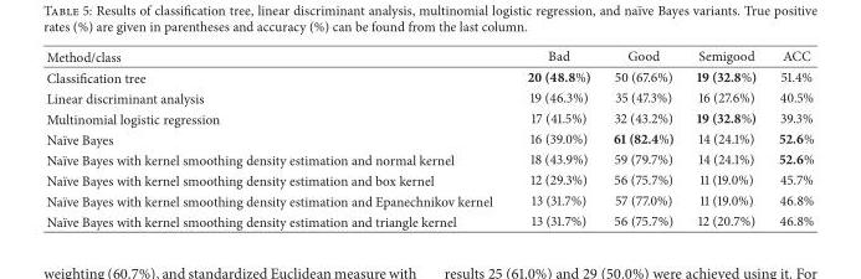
<table><thead><tr><td>Method/class</td><td>Bad</td><td>Good</td><td>Semigood</td><td>ACC</td></tr></thead><tbody><tr><td>Classification tree</td><td>20 (48.8%)</td><td>50 (67.6%)</td><td>19 (32.8%)</td><td>51.4%</td></tr><tr><td>Linear discriminant analysis</td><td>19 (46.3%)</td><td>35 (47.3%)</td><td>16 (27.6%)</td><td>40.5%</td></tr><tr><td>Multinomial logistic regression</td><td>17 (41.5%)</td><td>32 (43.2%)</td><td>19 (32.8%)</td><td>39.3%</td></tr><tr><td>Na¨ıve Bayes</td><td>16 (39.0%)</td><td>61 (82.4%)</td><td>14 (24.1%)</td><td>52.6%</td></tr><tr><td>Na¨ıve Bayes with kernel smoothing density estimation and normal kernel</td><td>18 (43.9%)</td><td>59 (79.7%)</td><td>14 (24.1%)</td><td>52.6%</td></tr><tr><td>Na¨ıve Bayes with kernel smoothing density estimation and box kernel</td><td>12 (29.3%)</td><td>56 (75.7%)</td><td>11 (19.0%)</td><td>45.7%</td></tr><tr><td>Na¨ıve Bayes with kernel smoothing density estimation and Epanechnikov kernel</td><td>13 (31.7%)</td><td>57 (77.0%)</td><td>11 (19.0%)</td><td>46.8%</td></tr><tr><td>Na¨ıve Bayes with kernel smoothing density estimation and triangle kernel</td><td>13 (31.7%)</td><td>56 (75.7%)</td><td>12 (20.7%)</td><td>46.8%</td></tr></tbody></table>